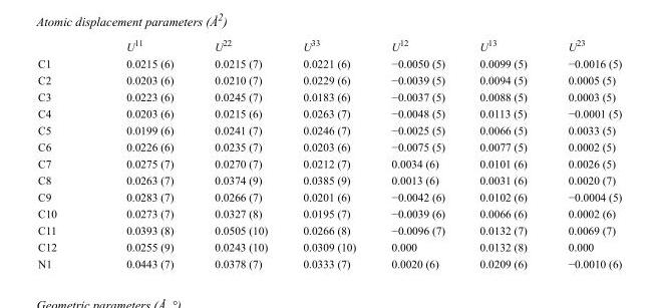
<table><thead><tr><td></td><td>U<sup>11</sup></td><td>U<sup>22</sup></td><td>U<sup>33</sup></td><td>U<sup>12</sup></td><td>U<sup>13</sup></td><td>U<sup>23</sup></td></tr></thead><tbody><tr><td>C1</td><td>0.0215 (6)</td><td>0.0215 (7)</td><td>0.0221 (6)</td><td>−0.0050 (5)</td><td>0.0099 (5)</td><td>−0.0016 (5)</td></tr><tr><td>C2</td><td>0.0203 (6)</td><td>0.0210 (7)</td><td>0.0229 (6)</td><td>−0.0039 (5)</td><td>0.0094 (5)</td><td>0.0005 (5)</td></tr><tr><td>C3</td><td>0.0223 (6)</td><td>0.0245 (7)</td><td>0.0183 (6)</td><td>−0.0037 (5)</td><td>0.0088 (5)</td><td>0.0003 (5)</td></tr><tr><td>C4</td><td>0.0203 (6)</td><td>0.0215 (6)</td><td>0.0263 (7)</td><td>−0.0048 (5)</td><td>0.0113 (5)</td><td>−0.0001 (5)</td></tr><tr><td>C5</td><td>0.0199 (6)</td><td>0.0241 (7)</td><td>0.0246 (7)</td><td>−0.0025 (5)</td><td>0.0066 (5)</td><td>0.0033 (5)</td></tr><tr><td>C6</td><td>0.0226 (6)</td><td>0.0235 (7)</td><td>0.0203 (6)</td><td>−0.0075 (5)</td><td>0.0077 (5)</td><td>0.0002 (5)</td></tr><tr><td>C7</td><td>0.0275 (7)</td><td>0.0270 (7)</td><td>0.0212 (7)</td><td>0.0034 (6)</td><td>0.0101 (6)</td><td>0.0026 (5)</td></tr><tr><td>C8</td><td>0.0263 (7)</td><td>0.0374 (9)</td><td>0.0385 (9)</td><td>0.0013 (6)</td><td>0.0031 (6)</td><td>0.0020 (7)</td></tr><tr><td>C9</td><td>0.0283 (7)</td><td>0.0266 (7)</td><td>0.0201 (6)</td><td>−0.0042 (6)</td><td>0.0102 (6)</td><td>−0.0004 (5)</td></tr><tr><td>C10</td><td>0.0273 (7)</td><td>0.0327 (8)</td><td>0.0195 (7)</td><td>−0.0039 (6)</td><td>0.0066 (6)</td><td>0.0002 (6)</td></tr><tr><td>C11</td><td>0.0393 (8)</td><td>0.0505 (10)</td><td>0.0266 (8)</td><td>−0.0096 (7)</td><td>0.0132 (7)</td><td>0.0069 (7)</td></tr><tr><td>C12</td><td>0.0255 (9)</td><td>0.0243 (10)</td><td>0.0309 (10)</td><td>0.000</td><td>0.0132 (8)</td><td>0.000</td></tr><tr><td>N1</td><td>0.0443 (7)</td><td>0.0378 (7)</td><td>0.0333 (7)</td><td>0.0020 (6)</td><td>0.0209 (6)</td><td>−0.0010 (6)</td></tr></tbody></table>